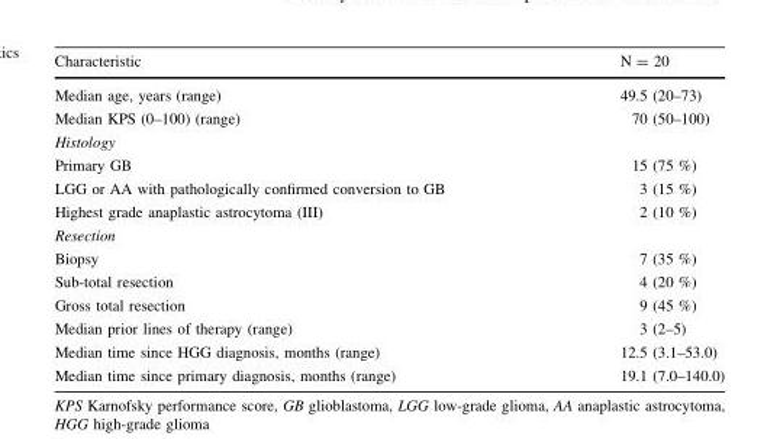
<table><thead><tr><td>Characteristic</td><td>N = 20</td></tr></thead><tbody><tr><td>Median age, years (range)</td><td>49.5 (20–73)</td></tr><tr><td>Median KPS (0–100) (range)</td><td>70 (50–100)</td></tr><tr><td colspan="2">Histology</td></tr><tr><td>Primary GB</td><td>15 (75 %)</td></tr><tr><td>LGG or AA with pathologically confirmed conversion to GB</td><td>3 (15 %)</td></tr><tr><td>Highest grade anaplastic astrocytoma (III)</td><td>2 (10 %)</td></tr><tr><td colspan="2">Resection</td></tr><tr><td>Biopsy</td><td>7 (35 %)</td></tr><tr><td>Sub-total resection</td><td>4 (20 %)</td></tr><tr><td>Gross total resection</td><td>9 (45 %)</td></tr><tr><td>Median prior lines of therapy (range)</td><td>3 (2–5)</td></tr><tr><td>Median time since HGG diagnosis, months (range)</td><td>12.5 (3.1–53.0)</td></tr><tr><td>Median time since primary diagnosis, months (range)</td><td>19.1 (7.0–140.0)</td></tr></tbody></table>